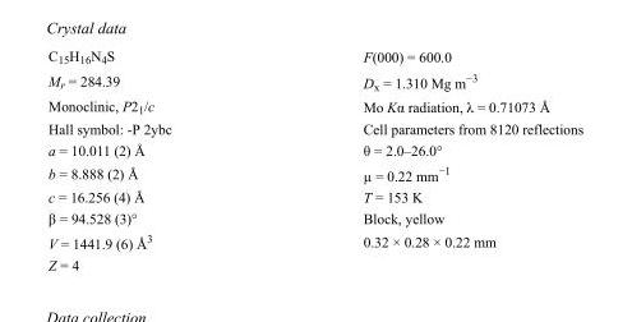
<table><tbody><tr><td>C<sub>15</sub>H<sub>16</sub>N<sub>4</sub>S</td><td>F(000) = 600.0</td></tr><tr><td>M<sub>r</sub> = 284.39</td><td>D<sub>x</sub> = 1.310 Mg m<sup>−3</sup></td></tr><tr><td>Monoclinic, P2<sub>1</sub>/c</td><td>Mo Kα radiation, λ = 0.71073 Å</td></tr><tr><td>Hall symbol: -P 2ybc</td><td>Cell parameters from 8120 reflections</td></tr><tr><td>a = 10.011 (2) Å</td><td>θ = 2.0–26.0°</td></tr><tr><td>b = 8.888 (2) Å</td><td>µ = 0.22 mm<sup>−1</sup></td></tr><tr><td>c = 16.256 (4) Å</td><td>T = 153 K</td></tr><tr><td>β = 94.528 (3)°</td><td>Block, yellow</td></tr><tr><td>V = 1441.9 (6) Å<sup>3</sup></td><td>0.32 × 0.28 × 0.22 mm</td></tr><tr><td>Z = 4</td><td></td></tr></tbody></table>